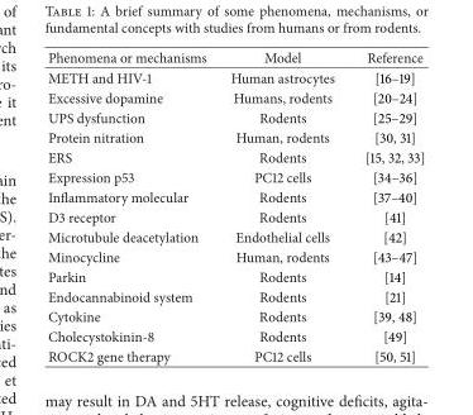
<table><thead><tr><td>Phenomena or mechanisms</td><td>Model</td><td>Reference</td></tr></thead><tbody><tr><td>METH and HIV-1</td><td>Human astrocytes</td><td>[16–19]</td></tr><tr><td>Excessive dopamine</td><td>Humans, rodents</td><td>[20–24]</td></tr><tr><td>UPS dysfunction</td><td>Rodents</td><td>[25–29]</td></tr><tr><td>Protein nitration</td><td>Human, rodents</td><td>[30, 31]</td></tr><tr><td>ERS</td><td>Rodents</td><td>[15, 32, 33]</td></tr><tr><td>Expression p53</td><td>PC12 cells</td><td>[34–36]</td></tr><tr><td>Inflammatory molecular</td><td>Rodents</td><td>[37–40]</td></tr><tr><td>D3 receptor</td><td>Rodents</td><td>[41]</td></tr><tr><td>Microtubule deacetylation</td><td>Endothelial cells</td><td>[42]</td></tr><tr><td>Minocycline</td><td>Human, rodents</td><td>[43–47]</td></tr><tr><td>Parkin</td><td>Rodents</td><td>[14]</td></tr><tr><td>Endocannabinoid system</td><td>Rodents</td><td>[21]</td></tr><tr><td>Cytokine</td><td>Rodents</td><td>[39, 48]</td></tr><tr><td>Cholecystokinin-8</td><td>Rodents</td><td>[49]</td></tr><tr><td>ROCK2 gene therapy</td><td>PC12 cells</td><td>[50, 51]</td></tr></tbody></table>